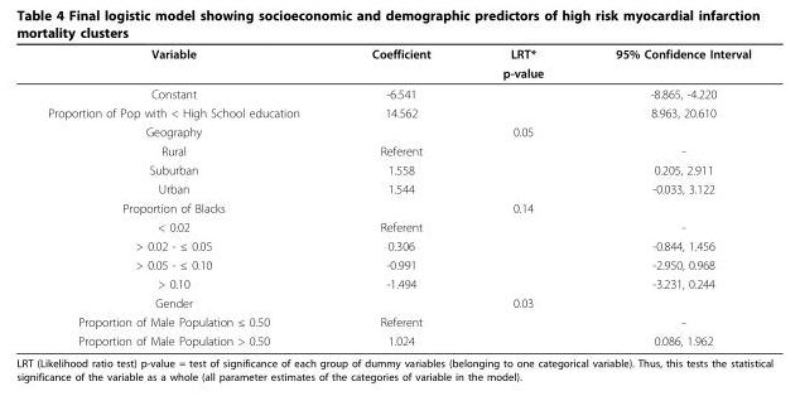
<table><thead><tr><td rowspan="2">Variable</td><td rowspan="2">Coefficient</td><td rowspan="2">LRT* p-value</td><td rowspan="2">95% Confidence Interval</td></tr><tr></tr></thead><tbody><tr><td>Constant</td><td>-6.541</td><td></td><td>-8.865, -4.220</td></tr><tr><td>Proportion of Pop with &lt; High School education</td><td>14.562</td><td></td><td>8.963, 20.610</td></tr><tr><td>Geography</td><td></td><td>0.05</td><td></td></tr><tr><td>Rural</td><td>Referent</td><td></td><td>-</td></tr><tr><td>Suburban</td><td>1.558</td><td></td><td>0.205, 2.911</td></tr><tr><td>Urban</td><td>1.544</td><td></td><td>-0.033, 3.122</td></tr><tr><td>Proportion of Blacks</td><td></td><td>0.14</td><td></td></tr><tr><td>&lt; 0.02</td><td>Referent</td><td></td><td>-</td></tr><tr><td>&gt; 0.02 - ≤ 0.05</td><td>0.306</td><td></td><td>-0.844, 1.456</td></tr><tr><td>&gt; 0.05 - ≤ 0.10</td><td>-0.991</td><td></td><td>-2.950, 0.968</td></tr><tr><td>&gt; 0.10</td><td>-1.494</td><td></td><td>-3.231, 0.244</td></tr><tr><td>Gender</td><td></td><td>0.03</td><td></td></tr><tr><td>Proportion of Male Population ≤ 0.50</td><td>Referent</td><td></td><td>-</td></tr><tr><td>Proportion of Male Population &gt; 0.50</td><td>1.024</td><td></td><td>0.086, 1.962</td></tr></tbody></table>